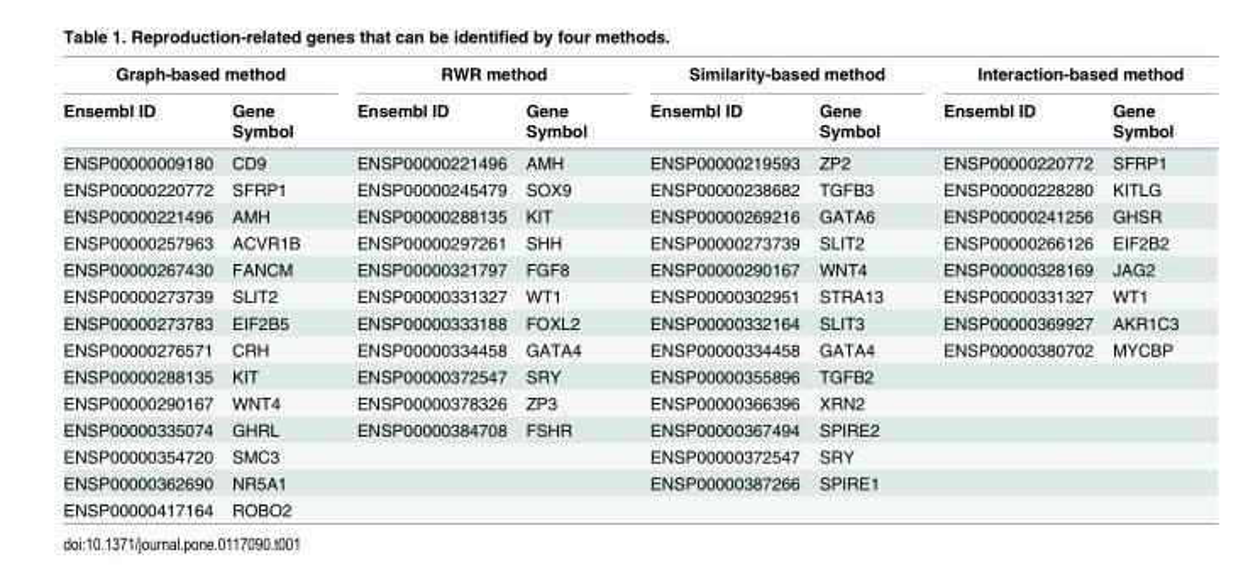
<table><thead><tr><td colspan="2">Graph-based method</td><td colspan="2">RWR method</td><td colspan="2">Similarity-based method</td><td colspan="2">Interaction-based method</td></tr><tr><td>Ensembl ID</td><td>Gene Symbol</td><td>Ensembl ID</td><td>Gene Symbol</td><td>Ensembl ID</td><td>Gene Symbol</td><td>Ensembl ID</td><td>Gene Symbol</td></tr></thead><tbody><tr><td>ENSP00000009180</td><td>CD9</td><td>ENSP00000221496</td><td>AMH</td><td>ENSP00000219593</td><td>ZP2</td><td>ENSP00000220772</td><td>SFRP1</td></tr><tr><td>ENSP00000220772</td><td>SFRP1</td><td>ENSP00000245479</td><td>SOX9</td><td>ENSP00000238682</td><td>TGFB3</td><td>ENSP00000228280</td><td>KITLG</td></tr><tr><td>ENSP00000221496</td><td>AMH</td><td>ENSP00000288135</td><td>KIT</td><td>ENSP00000269216</td><td>GATA6</td><td>ENSP00000241256</td><td>GHSR</td></tr><tr><td>ENSP00000257963</td><td>ACVR1B</td><td>ENSP00000297261</td><td>SHH</td><td>ENSP00000273739</td><td>SLIT2</td><td>ENSP00000266126</td><td>EIF2B2</td></tr><tr><td>ENSP00000267430</td><td>FANCM</td><td>ENSP00000321797</td><td>FGF8</td><td>ENSP00000290167</td><td>WNT4</td><td>ENSP00000328169</td><td>JAG2</td></tr><tr><td>ENSP00000273739</td><td>SLIT2</td><td>ENSP00000331327</td><td>WT1</td><td>ENSP00000302951</td><td>STRA13</td><td>ENSP00000331327</td><td>WT1</td></tr><tr><td>ENSP00000273783</td><td>EIF2B5</td><td>ENSP00000333188</td><td>FOXL2</td><td>ENSP00000332164</td><td>SLIT3</td><td>ENSP00000369927</td><td>AKR1C3</td></tr><tr><td>ENSP00000276571</td><td>CRH</td><td>ENSP00000334458</td><td>GATA4</td><td>ENSP00000334458</td><td>GATA4</td><td>ENSP00000380702</td><td>MYCBP</td></tr><tr><td>ENSP00000288135</td><td>KIT</td><td>ENSP00000372547</td><td>SRY</td><td>ENSP00000355896</td><td>TGFB2</td><td></td><td></td></tr><tr><td>ENSP00000290167</td><td>WNT4</td><td>ENSP00000378326</td><td>ZP3</td><td>ENSP00000366396</td><td>XRN2</td><td></td><td></td></tr><tr><td>ENSP00000335074</td><td>GHRL</td><td>ENSP00000384708</td><td>FSHR</td><td>ENSP00000367494</td><td>SPIRE2</td><td></td><td></td></tr><tr><td>ENSP00000354720</td><td>SMC3</td><td></td><td></td><td>ENSP00000372547</td><td>SRY</td><td></td><td></td></tr><tr><td>ENSP00000362690</td><td>NR5A1</td><td></td><td></td><td>ENSP00000387266</td><td>SPIRE1</td><td></td><td></td></tr><tr><td>ENSP00000417164</td><td>ROBO2</td><td></td><td></td><td></td><td></td><td></td><td></td></tr></tbody></table>